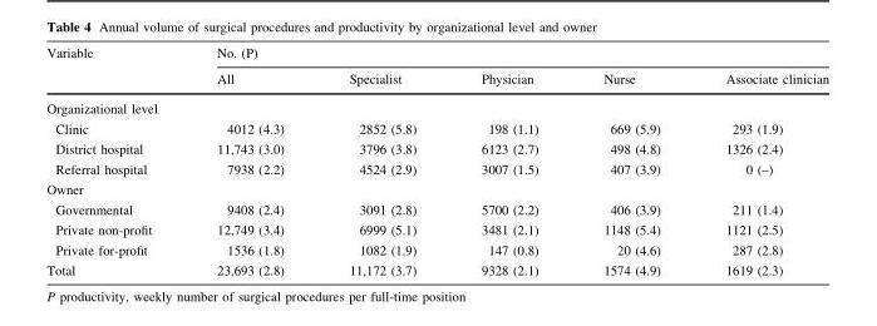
<table><thead><tr><td rowspan="2">Variable</td><td colspan="5">No. (P)</td></tr><tr><td>All</td><td>Specialist</td><td>Physician</td><td>Nurse</td><td>Associate clinician</td></tr></thead><tbody><tr><td colspan="6">Organizational level</td></tr><tr><td>Clinic</td><td>4012 (4.3)</td><td>2852 (5.8)</td><td>198 (1.1)</td><td>669 (5.9)</td><td>293 (1.9)</td></tr><tr><td>District hospital</td><td>11,743 (3.0)</td><td>3796 (3.8)</td><td>6123 (2.7)</td><td>498 (4.8)</td><td>1326 (2.4)</td></tr><tr><td>Referral hospital</td><td>7938 (2.2)</td><td>4524 (2.9)</td><td>3007 (1.5)</td><td>407 (3.9)</td><td>0 (–)</td></tr><tr><td colspan="6">Owner</td></tr><tr><td>Governmental</td><td>9408 (2.4)</td><td>3091 (2.8)</td><td>5700 (2.2)</td><td>406 (3.9)</td><td>211 (1.4)</td></tr><tr><td>Private non-profit</td><td>12,749 (3.4)</td><td>6999 (5.1)</td><td>3481 (2.1)</td><td>1148 (5.4)</td><td>1121 (2.5)</td></tr><tr><td>Private for-profit</td><td>1536 (1.8)</td><td>1082 (1.9)</td><td>147 (0.8)</td><td>20 (4.6)</td><td>287 (2.8)</td></tr><tr><td>Total</td><td>23,693 (2.8)</td><td>11,172 (3.7)</td><td>9328 (2.1)</td><td>1574 (4.9)</td><td>1619 (2.3)</td></tr></tbody></table>